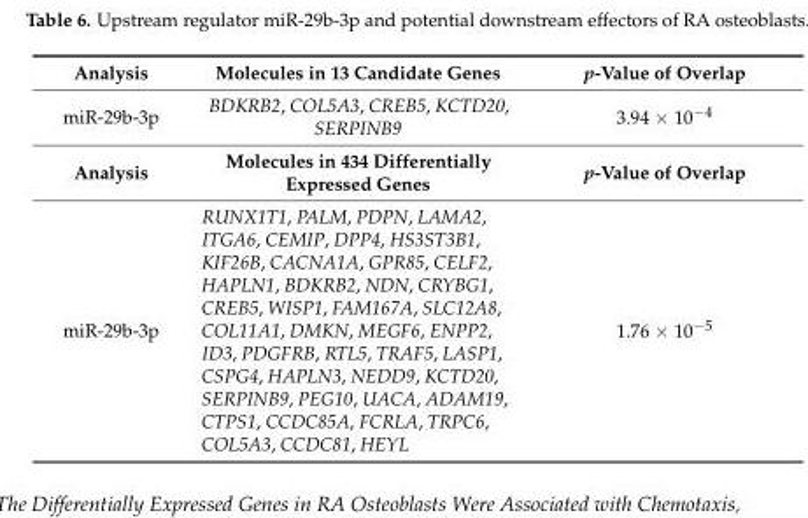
<table><tbody><tr><td>Analysis</td><td>Molecules in 13 Candidate Genes</td><td>p-Value of Overlap</td></tr><tr><td>miR-29b-3p</td><td>BDKRB2, COL5A3, CREB5, KCTD20, SERPINB9</td><td>3.94 × 10<sup>−4</sup></td></tr><tr><td>Analysis</td><td>Molecules in 434 Differentially Expressed Genes</td><td>p-Value of Overlap</td></tr><tr><td>miR-29b-3p</td><td>RUNX1T1, PALM, PDPN, LAMA2, ITGA6, CEMIP, DPP4, HS3ST3B1, KIF26B, CACNA1A, GPR85, CELF2, HAPLN1, BDKRB2, NDN, CRYBG1, CREB5, WISP1, FAM167A, SLC12A8, COL11A1, DMKN, MEGF6, ENPP2, ID3, PDGFRB, RTL5, TRAF5, LASP1, CSPG4, HAPLN3, NEDD9, KCTD20, SERPINB9, PEG10, UACA, ADAM19, CTPS1, CCDC85A, FCRLA, TRPC6, COL5A3, CCDC81, HEYL</td><td>1.76 × 10<sup>−5</sup></td></tr></tbody></table>